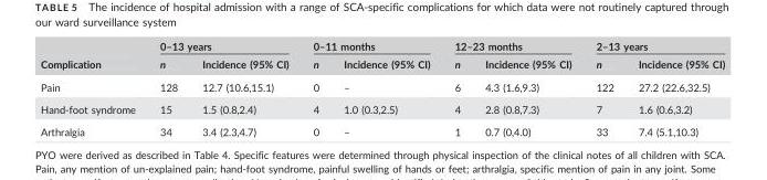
<table><thead><tr><td rowspan="2">Complication</td><td colspan="2">0–13 years</td><td colspan="2">0–11 months</td><td colspan="2">12–23 months</td><td colspan="2">2–13 years</td></tr><tr><td>n</td><td>Incidence (95% CI)</td><td>n</td><td>Incidence (95% CI)</td><td>n</td><td>Incidence (95% CI)</td><td>n</td><td>Incidence (95% CI)</td></tr></thead><tbody><tr><td>Pain</td><td>128</td><td>12.7 (10.6,15.1)</td><td>0</td><td>–</td><td>6</td><td>4.3 (1.6,9.3)</td><td>122</td><td>27.2 (22.6,32.5)</td></tr><tr><td>Hand-foot syndrome</td><td>15</td><td>1.5 (0.8,2.4)</td><td>4</td><td>1.0 (0.3,2.5)</td><td>4</td><td>2.8 (0.8,7.3)</td><td>7</td><td>1.6 (0.6,3.2)</td></tr><tr><td>Arthralgia</td><td>34</td><td>3.4 (2.3,4.7)</td><td>0</td><td>–</td><td>1</td><td>0.7 (0,4.0)</td><td>33</td><td>7.4 (5.1,10.3)</td></tr></tbody></table>